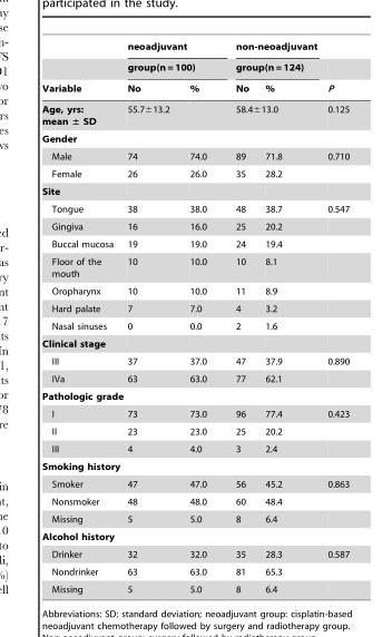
<table><thead><tr><td rowspan="3">Variable</td><td rowspan="2" colspan="2">neoadjuvant group(n = 100)</td><td rowspan="2" colspan="2">non-neoadjuvant group(n = 124)</td><td rowspan="3">P</td></tr><tr></tr><tr><td>No</td><td>%</td><td>No</td><td>%</td></tr></thead><tbody><tr><td>Age, yrs: mean ± SD</td><td colspan="2">55.7±13.2</td><td colspan="2">58.4±13.0</td><td>0.125</td></tr><tr><td colspan="6">Gender</td></tr><tr><td>Male</td><td>74</td><td>74.0</td><td>89</td><td>71.8</td><td>0.710</td></tr><tr><td>Female</td><td>26</td><td>26.0</td><td>35</td><td>28.2</td><td></td></tr><tr><td colspan="6">Site</td></tr><tr><td>Tongue</td><td>38</td><td>38.0</td><td>48</td><td>38.7</td><td>0.547</td></tr><tr><td>Gingiva</td><td>16</td><td>16.0</td><td>25</td><td>20.2</td><td></td></tr><tr><td>Buccal mucosa</td><td>19</td><td>19.0</td><td>24</td><td>19.4</td><td></td></tr><tr><td>Floor of the mouth</td><td>10</td><td>10.0</td><td>10</td><td>8.1</td><td></td></tr><tr><td>Oropharynx</td><td>10</td><td>10.0</td><td>11</td><td>8.9</td><td></td></tr><tr><td>Hard palate</td><td>7</td><td>7.0</td><td>4</td><td>3.2</td><td></td></tr><tr><td>Nasal sinuses</td><td>0</td><td>0.0</td><td>2</td><td>1.6</td><td></td></tr><tr><td colspan="6">Clinical stage</td></tr><tr><td>III</td><td>37</td><td>37.0</td><td>47</td><td>37.9</td><td>0.890</td></tr><tr><td>IVa</td><td>63</td><td>63.0</td><td>77</td><td>62.1</td><td></td></tr><tr><td colspan="6">Pathologic grade</td></tr><tr><td>I</td><td>73</td><td>73.0</td><td>96</td><td>77.4</td><td>0.423</td></tr><tr><td>II</td><td>23</td><td>23.0</td><td>25</td><td>20.2</td><td></td></tr><tr><td>III</td><td>4</td><td>4.0</td><td>3</td><td>2.4</td><td></td></tr><tr><td colspan="6">Smoking history</td></tr><tr><td>Smoker</td><td>47</td><td>47.0</td><td>56</td><td>45.2</td><td>0.863</td></tr><tr><td>Nonsmoker</td><td>48</td><td>48.0</td><td>60</td><td>48.4</td><td></td></tr><tr><td>Missing</td><td>5</td><td>5.0</td><td>8</td><td>6.4</td><td></td></tr><tr><td colspan="6">Alcohol history</td></tr><tr><td>Drinker</td><td>32</td><td>32.0</td><td>35</td><td>28.3</td><td>0.587</td></tr><tr><td>Nondrinker</td><td>63</td><td>63.0</td><td>81</td><td>65.3</td><td></td></tr><tr><td>Missing</td><td>5</td><td>5.0</td><td>8</td><td>6.4</td><td></td></tr></tbody></table>